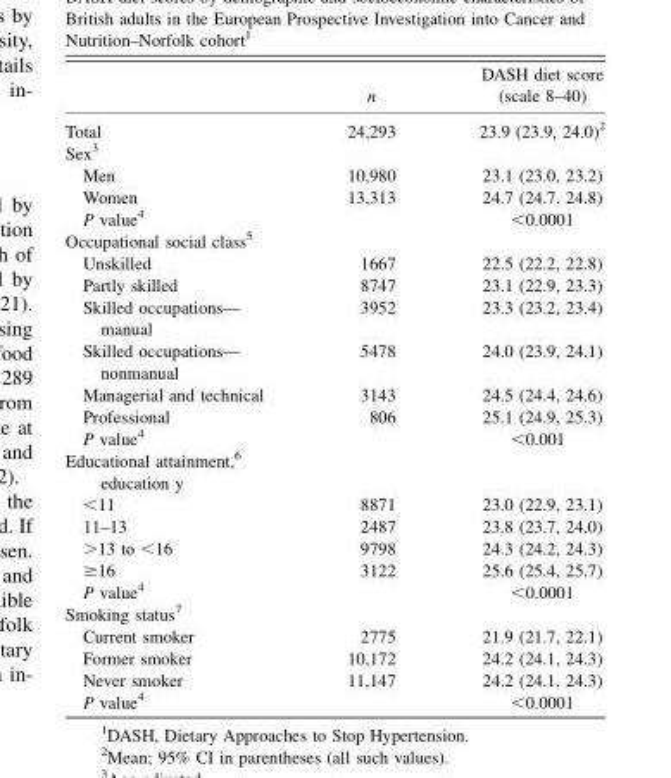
<table><thead><tr><td></td><td>n</td><td>DASH diet score (scale 8–40)</td></tr></thead><tbody><tr><td>Total</td><td>24,293</td><td>23.9 (23.9, 24.0)<sup>2</sup></td></tr><tr><td colspan="3">Sex<sup>3</sup></td></tr><tr><td>Men</td><td>10,980</td><td>23.1 (23.0, 23.2)</td></tr><tr><td>Women</td><td>13,313</td><td>24.7 (24.7, 24.8)</td></tr><tr><td>P value<sup>4</sup></td><td></td><td>&lt;0.0001</td></tr><tr><td colspan="3">Occupational social class<sup>5</sup></td></tr><tr><td>Unskilled</td><td>1667</td><td>22.5 (22.2, 22.8)</td></tr><tr><td>Partly skilled</td><td>8747</td><td>23.1 (22.9, 23.3)</td></tr><tr><td>Skilled occupations— manual</td><td>3952</td><td>23.3 (23.2, 23.4)</td></tr><tr><td>Skilled occupations— nonmanual</td><td>5478</td><td>24.0 (23.9, 24.1)</td></tr><tr><td>Managerial and technical</td><td>3143</td><td>24.5 (24.4, 24.6)</td></tr><tr><td>Professional</td><td>806</td><td>25.1 (24.9, 25.3)</td></tr><tr><td>P value<sup>4</sup></td><td></td><td>&lt;0.001</td></tr><tr><td colspan="3">Educational attainment,<sup>6</sup> education y</td></tr><tr><td>&lt;11</td><td>8871</td><td>23.0 (22.9, 23.1)</td></tr><tr><td>11–13</td><td>2487</td><td>23.8 (23.7, 24.0)</td></tr><tr><td>&gt;13 to &lt;16</td><td>9798</td><td>24.3 (24.2, 24.3)</td></tr><tr><td>≥16</td><td>3122</td><td>25.6 (25.4, 25.7)</td></tr><tr><td>P value<sup>4</sup></td><td></td><td>&lt;0.0001</td></tr><tr><td colspan="3">Smoking status<sup>7</sup></td></tr><tr><td>Current smoker</td><td>2775</td><td>21.9 (21.7, 22.1)</td></tr><tr><td>Former smoker</td><td>10,172</td><td>24.2 (24.1, 24.3)</td></tr><tr><td>Never smoker</td><td>11,147</td><td>24.2 (24.1, 24.3)</td></tr><tr><td>P value<sup>4</sup></td><td></td><td>&lt;0.0001</td></tr></tbody></table>